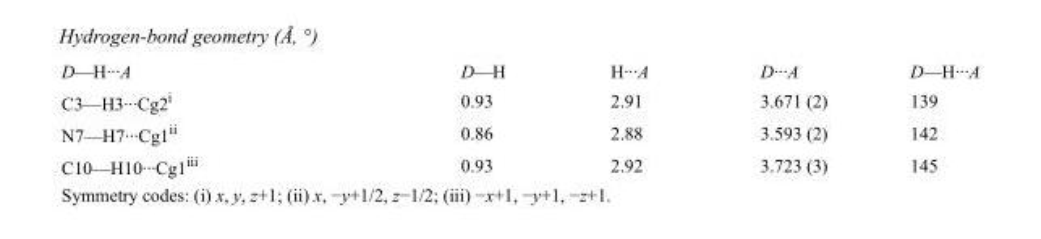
<table><tbody><tr><td>D—H···A</td><td>D—H</td><td>H···A</td><td>D···A</td><td>D—H···A</td></tr><tr><td>C3—H3···Cg2<sup>i</sup></td><td>0.93</td><td>2.91</td><td>3.671 (2)</td><td>139</td></tr><tr><td>N7—H7···Cg1<sup>ii</sup></td><td>0.86</td><td>2.88</td><td>3.593 (2)</td><td>142</td></tr><tr><td>C10—H10···Cg1<sup>iii</sup></td><td>0.93</td><td>2.92</td><td>3.723 (3)</td><td>145</td></tr></tbody></table>